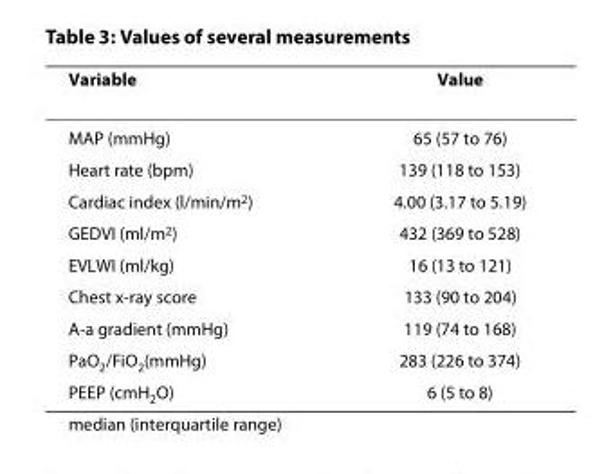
<table><thead><tr><td>Variable</td><td>Value</td></tr></thead><tbody><tr><td>MAP (mmHg)</td><td>65 (57 to 76)</td></tr><tr><td>Heart rate (bpm)</td><td>139 (118 to 153)</td></tr><tr><td>Cardiac index (l/min/m<sup>2</sup>)</td><td>4.00 (3.17 to 5.19)</td></tr><tr><td>GEDVI (ml/m<sup>2</sup>)</td><td>432 (369 to 528)</td></tr><tr><td>EVLWI (ml/kg)</td><td>16 (13 to 121)</td></tr><tr><td>Chest x-ray score</td><td>133 (90 to 204)</td></tr><tr><td>A-a gradient (mmHg)</td><td>119 (74 to 168)</td></tr><tr><td>PaO<sub>2</sub>/FiO<sub>2</sub>(mmHg)</td><td>283 (226 to 374)</td></tr><tr><td>PEEP (cmH<sub>2</sub>O)</td><td>6 (5 to 8)</td></tr></tbody></table>